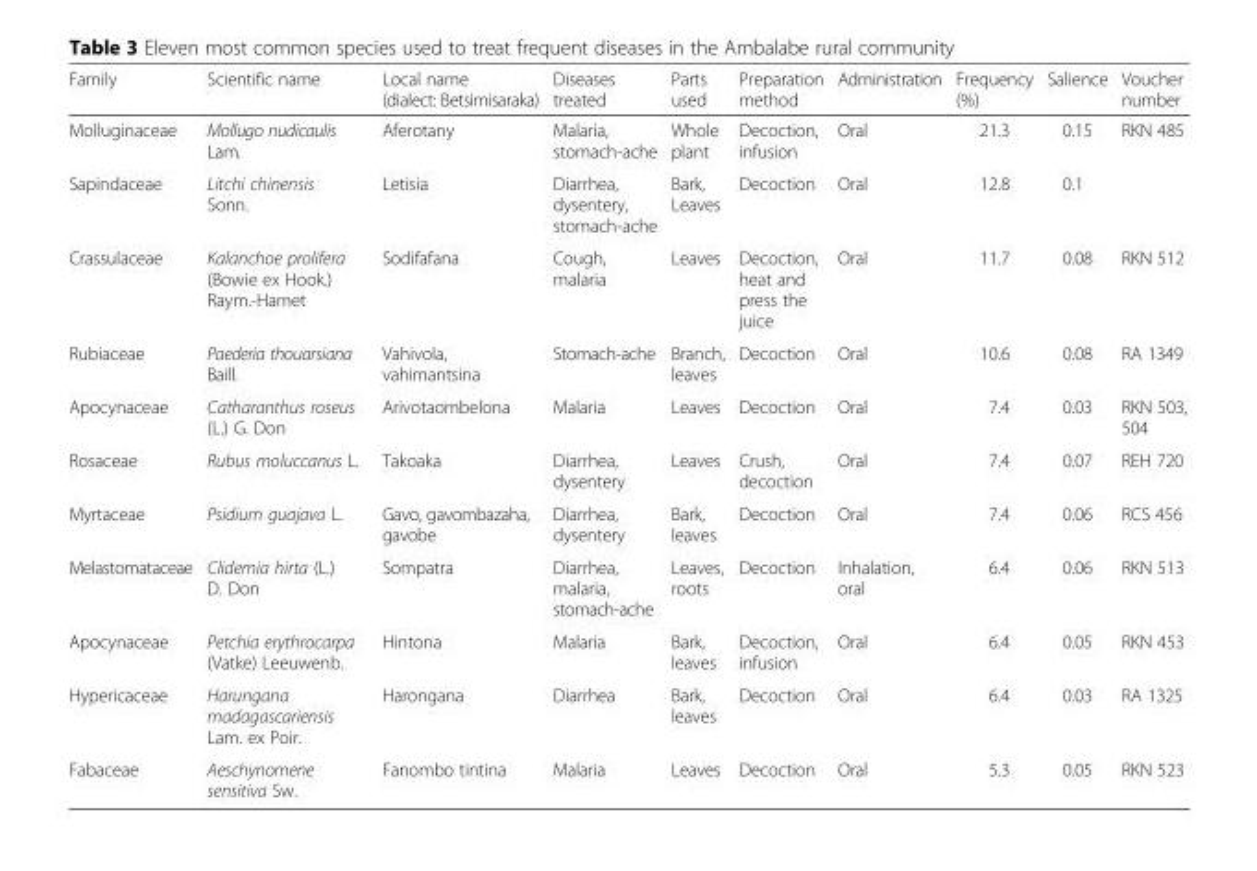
<table><thead><tr><td>Family</td><td>Scientific name</td><td>Local name (dialect: Betsimisaraka)</td><td>Diseases treated</td><td>Parts used</td><td>Preparation method</td><td>Administration</td><td>Frequency (%)</td><td>Salience</td><td>Voucher number</td></tr></thead><tbody><tr><td>Molluginaceae</td><td>Mollugo nudicaulis Lam.</td><td>Aferotany</td><td>Malaria, stomach-ache</td><td>Whole plant</td><td>Decoction, infusion</td><td>Oral</td><td>21.3</td><td>0.15</td><td>RKN 485</td></tr><tr><td>Sapindaceae</td><td>Litchi chinensis Sonn.</td><td>Letisia</td><td>Diarrhea, dysentery, stomach-ache</td><td>Bark, Leaves</td><td>Decoction</td><td>Oral</td><td>12.8</td><td>0.1</td><td></td></tr><tr><td>Crassulaceae</td><td>Kalanchoe prolifera (Bowie ex Hook.) Raym.-Hamet</td><td>Sodifafana</td><td>Cough, malaria</td><td>Leaves</td><td>Decoction, heat and press the juice</td><td>Oral</td><td>11.7</td><td>0.08</td><td>RKN 512</td></tr><tr><td>Rubiaceae</td><td>Paederia thouarsiana Baill.</td><td>Vahivola, vahimantsina</td><td>Stomach-ache</td><td>Branch, leaves</td><td>Decoction</td><td>Oral</td><td>10.6</td><td>0.08</td><td>RA 1349</td></tr><tr><td>Apocynaceae</td><td>Catharanthus roseus (L.) G. Don</td><td>Arivotaombelona</td><td>Malaria</td><td>Leaves</td><td>Decoction</td><td>Oral</td><td>7.4</td><td>0.03</td><td>RKN 503, 504</td></tr><tr><td>Rosaceae</td><td>Rubus moluccanus L.</td><td>Takoaka</td><td>Diarrhea, dysentery</td><td>Leaves</td><td>Crush, decoction</td><td>Oral</td><td>7.4</td><td>0.07</td><td>REH 720</td></tr><tr><td>Myrtaceae</td><td>Psidium guajava L.</td><td>Gavo, gavombazaha, gavobe</td><td>Diarrhea, dysentery</td><td>Bark, leaves</td><td>Decoction</td><td>Oral</td><td>7.4</td><td>0.06</td><td>RCS 456</td></tr><tr><td>Melastomataceae</td><td>Clidemia hirta (L.) D. Don</td><td>Sompatra</td><td>Diarrhea, malaria, stomach-ache</td><td>Leaves, roots</td><td>Decoction</td><td>Inhalation, oral</td><td>6.4</td><td>0.06</td><td>RKN 513</td></tr><tr><td>Apocynaceae</td><td>Petchia erythrocarpa (Vatke) Leeuwenb.</td><td>Hintona</td><td>Malaria</td><td>Bark, leaves</td><td>Decoction, infusion</td><td>Oral</td><td>6.4</td><td>0.05</td><td>RKN 453</td></tr><tr><td>Hypericaceae</td><td>Harungana madagascariensis Lam. ex Poir.</td><td>Harongana</td><td>Diarrhea</td><td>Bark, leaves</td><td>Decoction</td><td>Oral</td><td>6.4</td><td>0.03</td><td>RA 1325</td></tr><tr><td>Fabaceae</td><td>Aeschynomene sensitiva Sw.</td><td>Fanombo tintina</td><td>Malaria</td><td>Leaves</td><td>Decoction</td><td>Oral</td><td>5.3</td><td>0.05</td><td>RKN 523</td></tr></tbody></table>